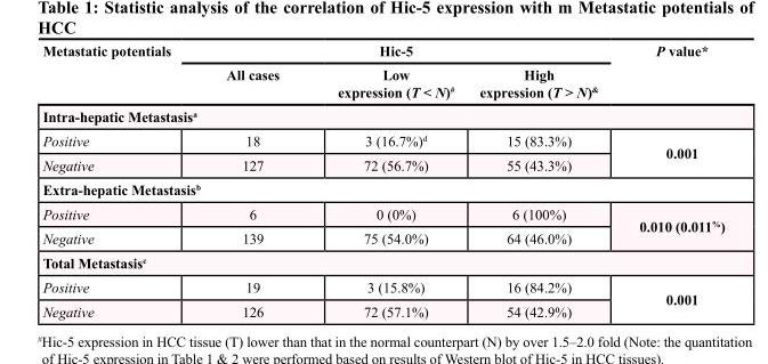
<table><thead><tr><td rowspan="2">Metastatic potentials</td><td colspan="3">Hic-5</td><td rowspan="2">P value*</td></tr><tr><td>All cases</td><td>Low expression (T &lt; N)<sup>#</sup></td><td>High expression (T &gt; N)<sup>&amp;</sup></td></tr></thead><tbody><tr><td colspan="5">Intra-hepatic Metastasis<sup>a</sup></td></tr><tr><td>Positive</td><td>18</td><td>3 (16.7%)<sup>d</sup></td><td>15 (83.3%)</td><td rowspan="2">0.001</td></tr><tr><td>Negative</td><td>127</td><td>72 (56.7%)</td><td>55 (43.3%)</td></tr><tr><td colspan="5">Extra-hepatic Metastasis<sup>b</sup></td></tr><tr><td>Positive</td><td>6</td><td>0 (0%)</td><td>6 (100%)</td><td rowspan="2">0.010 (0.011<sup>%</sup>)</td></tr><tr><td>Negative</td><td>139</td><td>75 (54.0%)</td><td>64 (46.0%)</td></tr><tr><td colspan="5">Total Metastasis<sup>c</sup></td></tr><tr><td>Positive</td><td>19</td><td>3 (15.8%)</td><td>16 (84.2%)</td><td rowspan="2">0.001</td></tr><tr><td>Negative</td><td>126</td><td>72 (57.1%)</td><td>54 (42.9%)</td></tr></tbody></table>